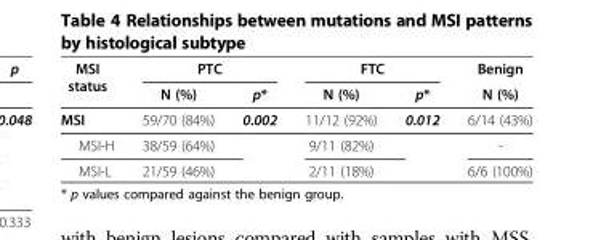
<table><thead><tr><td rowspan="2">MSI status</td><td colspan="2">PTC</td><td colspan="2">FTC</td><td rowspan="2">Benign N (%)</td></tr><tr><td>N (%)</td><td>p*</td><td>N (%)</td><td>p*</td></tr></thead><tbody><tr><td>MSI</td><td>59/70 (84%)</td><td>0.002</td><td>11/12 (92%)</td><td>0.012</td><td>6/14 (43%)</td></tr><tr><td>MSI-H</td><td>38/59 (64%)</td><td rowspan="2"></td><td>9/11 (82%)</td><td rowspan="2"></td><td>-</td></tr><tr><td>MSI-L</td><td>21/59 (46%)</td><td>2/11 (18%)</td><td>6/6 (100%)</td></tr></tbody></table>